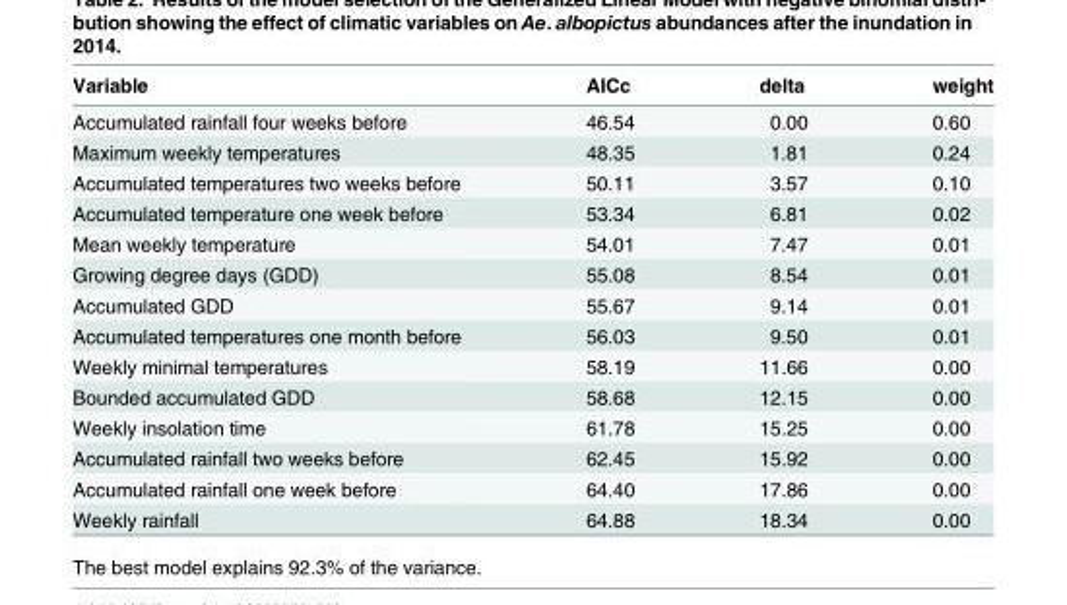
<table><thead><tr><td>Variable</td><td>AICc</td><td>delta</td><td>weight</td></tr></thead><tbody><tr><td>Accumulated rainfall four weeks before</td><td>46.54</td><td>0.00</td><td>0.60</td></tr><tr><td>Maximum weekly temperatures</td><td>48.35</td><td>1.81</td><td>0.24</td></tr><tr><td>Accumulated temperatures two weeks before</td><td>50.11</td><td>3.57</td><td>0.10</td></tr><tr><td>Accumulated temperature one week before</td><td>53.34</td><td>6.81</td><td>0.02</td></tr><tr><td>Mean weekly temperature</td><td>54.01</td><td>7.47</td><td>0.01</td></tr><tr><td>Growing degree days (GDD)</td><td>55.08</td><td>8.54</td><td>0.01</td></tr><tr><td>Accumulated GDD</td><td>55.67</td><td>9.14</td><td>0.01</td></tr><tr><td>Accumulated temperatures one month before</td><td>56.03</td><td>9.50</td><td>0.01</td></tr><tr><td>Weekly minimal temperatures</td><td>58.19</td><td>11.66</td><td>0.00</td></tr><tr><td>Bounded accumulated GDD</td><td>58.68</td><td>12.15</td><td>0.00</td></tr><tr><td>Weekly insolation time</td><td>61.78</td><td>15.25</td><td>0.00</td></tr><tr><td>Accumulated rainfall two weeks before</td><td>62.45</td><td>15.92</td><td>0.00</td></tr><tr><td>Accumulated rainfall one week before</td><td>64.40</td><td>17.86</td><td>0.00</td></tr><tr><td>Weekly rainfall</td><td>64.88</td><td>18.34</td><td>0.00</td></tr></tbody></table>